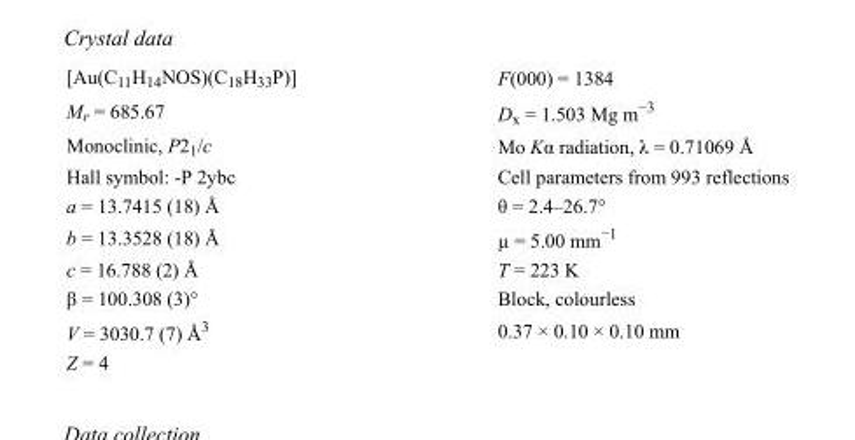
<table><tbody><tr><td>[Au(C<sub>11</sub>H<sub>14</sub>NOS)(C<sub>18</sub>H<sub>33</sub>P)]</td><td>F(000) = 1384</td></tr><tr><td>M<sub>r</sub> = 685.67</td><td>D<sub>x</sub> = 1.503 Mg m<sup>−3</sup></td></tr><tr><td>Monoclinic, P2<sub>1</sub>/c</td><td>Mo Kα radiation, λ = 0.71069 Å</td></tr><tr><td>Hall symbol: -P 2ybc</td><td>Cell parameters from 993 reflections</td></tr><tr><td>a = 13.7415 (18) Å</td><td>θ = 2.4–26.7°</td></tr><tr><td>b = 13.3528 (18) Å</td><td>µ = 5.00 mm<sup>−1</sup></td></tr><tr><td>c = 16.788 (2) Å</td><td>T = 223 K</td></tr><tr><td>β = 100.308 (3)°</td><td>Block, colourless</td></tr><tr><td>V = 3030.7 (7) Å<sup>3</sup></td><td>0.37 × 0.10 × 0.10 mm</td></tr><tr><td>Z = 4</td><td></td></tr></tbody></table>